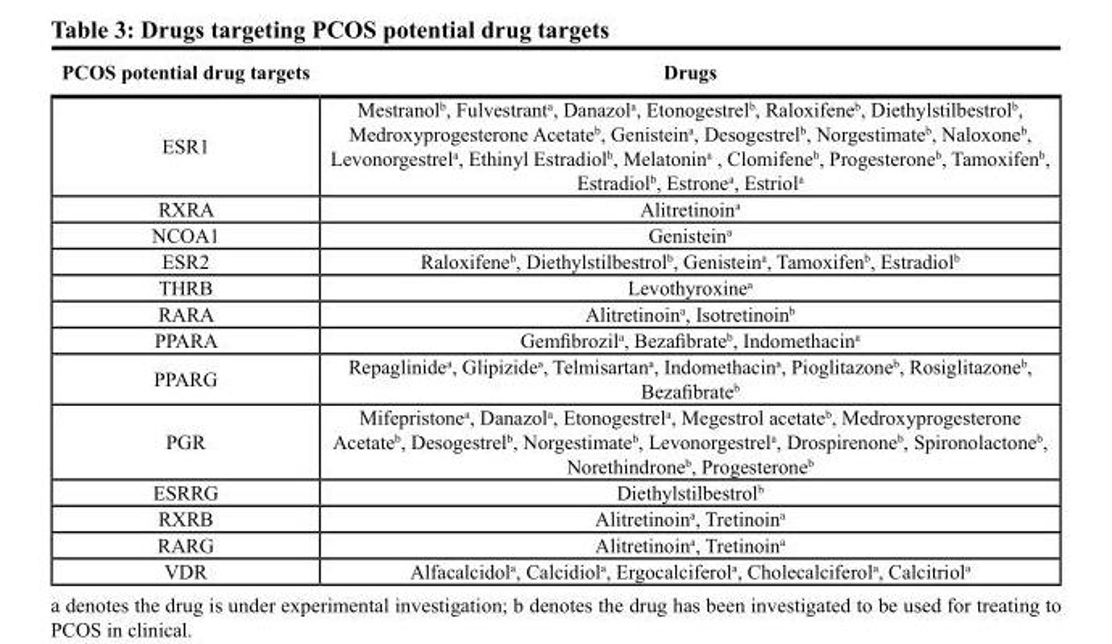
<table><thead><tr><td>Pcos potential drug targets</td><td>drugs</td></tr></thead><tbody><tr><td>ESR1</td><td>Mestranol<sup>b</sup>, Fulvestrant<sup>a</sup>, Danazol<sup>a</sup>, Etonogestrel<sup>b</sup>, Raloxifene<sup>b</sup>, Diethylstilbestrol<sup>b</sup>, Medroxyprogesterone Acetate<sup>b</sup>, Genistein<sup>a</sup>, Desogestrel<sup>b</sup>, Norgestimate<sup>b</sup>, Naloxone<sup>b</sup>, Levonorgestrel<sup>a</sup>, Ethinyl Estradiol<sup>b</sup>, Melatonin<sup>a</sup> , Clomifene<sup>b</sup>, Progesterone<sup>b</sup>, Tamoxifen<sup>b</sup>, Estradiol<sup>b</sup>, Estrone<sup>a</sup>, Estriol<sup>a</sup></td></tr><tr><td>RXRA</td><td>Alitretinoin<sup>a</sup></td></tr><tr><td>NCOA1</td><td>Genistein<sup>a</sup></td></tr><tr><td>ESR2</td><td>Raloxifene<sup>b</sup>, Diethylstilbestrol<sup>b</sup>, Genistein<sup>a</sup>, Tamoxifen<sup>b</sup>, Estradiol<sup>b</sup></td></tr><tr><td>THRB</td><td>Levothyroxine<sup>a</sup></td></tr><tr><td>RARA</td><td>Alitretinoin<sup>a</sup>, Isotretinoin<sup>b</sup></td></tr><tr><td>PPARA</td><td>Gemfibrozil<sup>a</sup>, Bezafibrate<sup>b</sup>, Indomethacin<sup>a</sup></td></tr><tr><td>PPARG</td><td>Repaglinide<sup>a</sup>, Glipizide<sup>a</sup>, Telmisartan<sup>a</sup>, Indomethacin<sup>a</sup>, Pioglitazone<sup>b</sup>, Rosiglitazone<sup>b</sup>, Bezafibrate<sup>b</sup></td></tr><tr><td>PGR</td><td>Mifepristone<sup>a</sup>, Danazol<sup>a</sup>, Etonogestrel<sup>a</sup>, Megestrol acetate<sup>b</sup>, Medroxyprogesterone Acetate<sup>b</sup>, Desogestrel<sup>b</sup>, Norgestimate<sup>b</sup>, Levonorgestrel<sup>a</sup>, Drospirenone<sup>b</sup>, Spironolactone<sup>b</sup>, Norethindrone<sup>b</sup>, Progesterone<sup>b</sup></td></tr><tr><td>ESRRG</td><td>Diethylstilbestrol<sup>b</sup></td></tr><tr><td>RXRB</td><td>Alitretinoin<sup>a</sup>, Tretinoin<sup>a</sup></td></tr><tr><td>RARG</td><td>Alitretinoin<sup>a</sup>, Tretinoin<sup>a</sup></td></tr><tr><td>VDR</td><td>Alfacalcidol<sup>a</sup>, Calcidiol<sup>a</sup>, Ergocalciferol<sup>a</sup>, Cholecalciferol<sup>a</sup>, Calcitriol<sup>a</sup></td></tr></tbody></table>